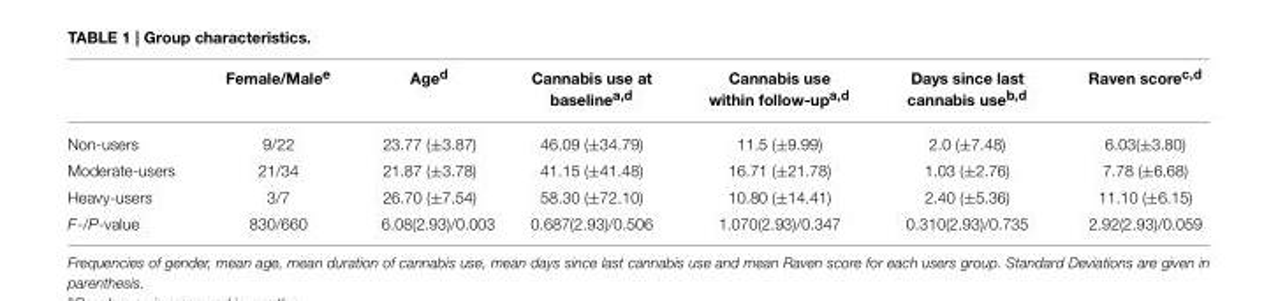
<table><thead><tr><td></td><td>Female/Male<sup>e</sup></td><td>Age<sup>d</sup></td><td>Cannabis use at baseline<sup>a,d</sup></td><td>Cannabis use within follow-up<sup>a,d</sup></td><td>Days since last cannabis use<sup>b,d</sup></td><td>Raven score<sup>c,d</sup></td></tr></thead><tbody><tr><td>Non-users</td><td>9/22</td><td>23.77 (±3.87)</td><td>46.09 (±34.79)</td><td>11.5 (±9.99)</td><td>2.0 (±7.48)</td><td>6.03(±3.80)</td></tr><tr><td>Moderate-users</td><td>21/34</td><td>21.87 (±3.78)</td><td>41.15 (±41.48)</td><td>16.71 (±21.78)</td><td>1.03 (±2.76)</td><td>7.78 (±6.68)</td></tr><tr><td>Heavy-users</td><td>3/7</td><td>26.70 (±7.54)</td><td>58.30 (±72.10)</td><td>10.80 (±14.41)</td><td>2.40 (±5.36)</td><td>11.10 (±6.15)</td></tr><tr><td>F-/P-value</td><td>830/660</td><td>6.08(2.93)/0.003</td><td>0.687(2.93)/0.506</td><td>1.070(2.93)/0.347</td><td>0.310(2.93)/0.735</td><td>2.92(2.93)/0.059</td></tr></tbody></table>